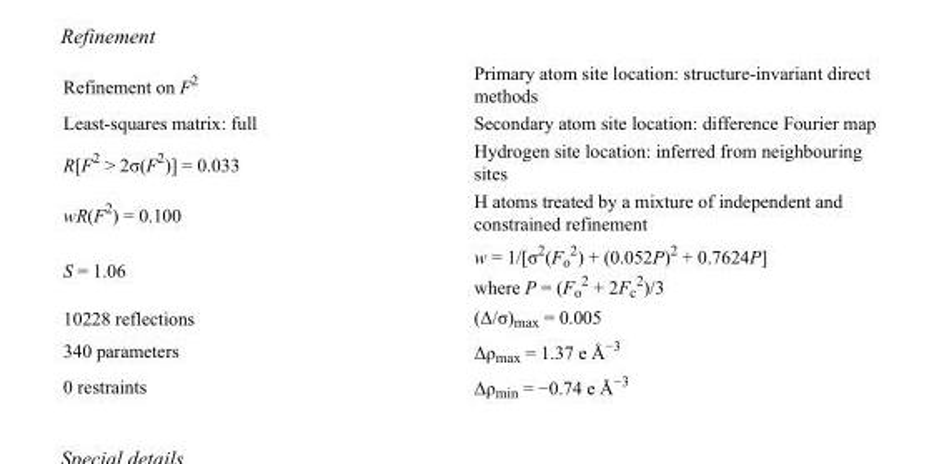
<table><tbody><tr><td>Refinement on F<sup>2</sup></td><td>Primary atom site location: structure-invariant direct methods</td></tr><tr><td>Least-squares matrix: full</td><td>Secondary atom site location: difference Fourier map</td></tr><tr><td>R[F<sup>2</sup> &gt; 2σ(F<sup>2</sup>)] = 0.033</td><td>Hydrogen site location: inferred from neighbouring sites</td></tr><tr><td>wR(F<sup>2</sup>) = 0.100</td><td>H atoms treated by a mixture of independent and constrained refinement</td></tr><tr><td>S = 1.06</td><td>w = 1/[σ<sup>2</sup>(F<sub>o</sub> <sup>2</sup>) + (0.052P)<sup>2</sup> + 0.7624P] where P = (F<sub>o</sub> <sup>2</sup> + 2F<sub>c</sub> <sup>2</sup>)/3</td></tr><tr><td>10228 reflections</td><td>(Δ/σ)<sub>max</sub> = 0.005</td></tr><tr><td>340 parameters</td><td>Δρ<sub>max</sub> = 1.37 e Å<sup>−3</sup></td></tr><tr><td>0 restraints</td><td>Δρ<sub>min</sub> = −0.74 e Å<sup>−3</sup></td></tr></tbody></table>